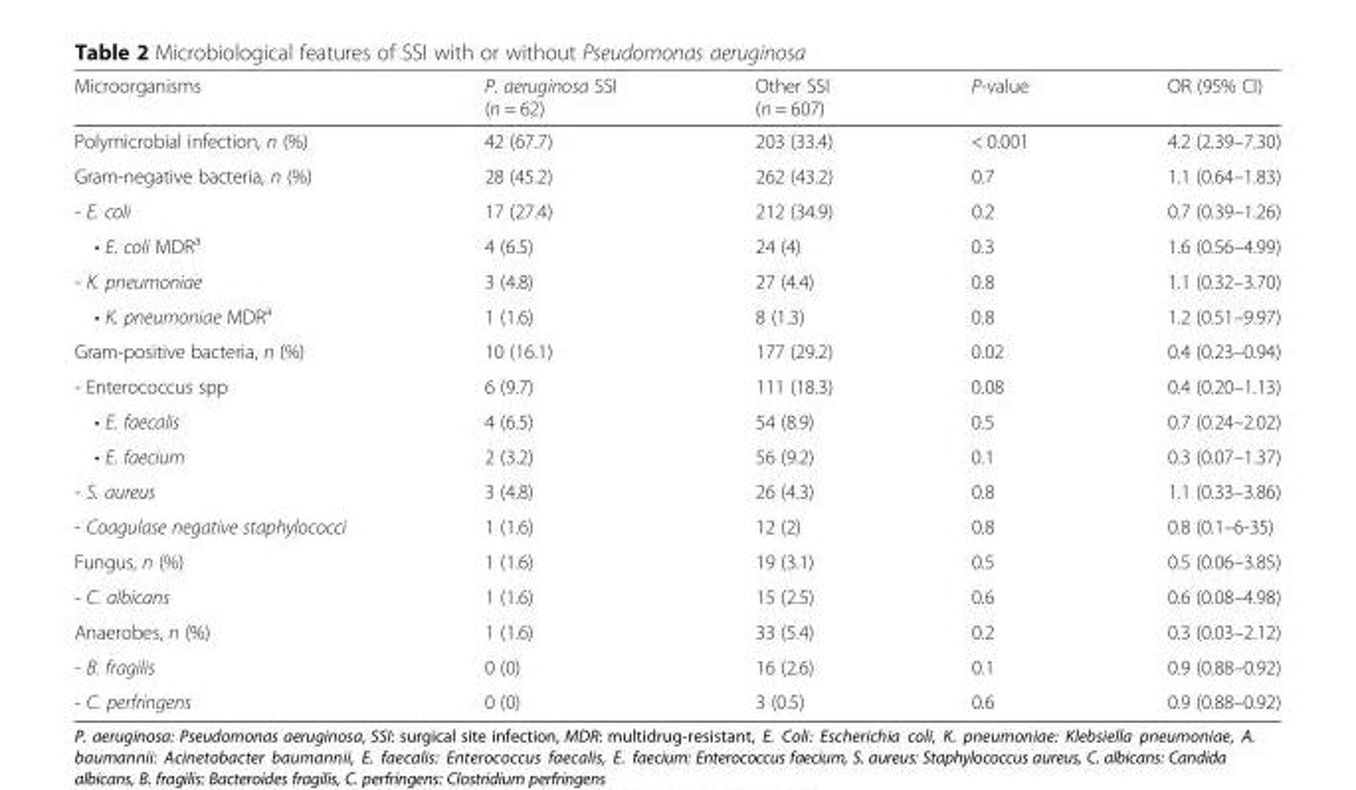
<table><thead><tr><td>Microorganisms</td><td>P. aeruginosa SSI (n = 62)</td><td>Other SSI (n = 607)</td><td>P-value</td><td>OR (95% CI)</td></tr></thead><tbody><tr><td>Polymicrobial infection, n (%)</td><td>42 (67.7)</td><td>203 (33.4)</td><td>&lt; 0.001</td><td>4.2 (2.39–7.30)</td></tr><tr><td>Gram-negative bacteria, n (%)</td><td>28 (45.2)</td><td>262 (43.2)</td><td>0.7</td><td>1.1 (0.64–1.83)</td></tr><tr><td>- E. coli</td><td>17 (27.4)</td><td>212 (34.9)</td><td>0.2</td><td>0.7 (0.39–1.26)</td></tr><tr><td>• E. coli MDR<sup>a</sup></td><td>4 (6.5)</td><td>24 (4)</td><td>0.3</td><td>1.6 (0.56–4.99)</td></tr><tr><td>- K. pneumoniae</td><td>3 (4.8)</td><td>27 (4.4)</td><td>0.8</td><td>1.1 (0.32–3.70)</td></tr><tr><td>• K. pneumoniae MDR<sup>a</sup></td><td>1 (1.6)</td><td>8 (1.3)</td><td>0.8</td><td>1.2 (0.51–9.97)</td></tr><tr><td>Gram-positive bacteria, n (%)</td><td>10 (16.1)</td><td>177 (29.2)</td><td>0.02</td><td>0.4 (0.23–0.94)</td></tr><tr><td>- Enterococcus spp</td><td>6 (9.7)</td><td>111 (18.3)</td><td>0.08</td><td>0.4 (0.20–1.13)</td></tr><tr><td>• E. faecalis</td><td>4 (6.5)</td><td>54 (8.9)</td><td>0.5</td><td>0.7 (0.24–2.02)</td></tr><tr><td>• E. faecium</td><td>2 (3.2)</td><td>56 (9.2)</td><td>0.1</td><td>0.3 (0.07–1.37)</td></tr><tr><td>- S. aureus</td><td>3 (4.8)</td><td>26 (4.3)</td><td>0.8</td><td>1.1 (0.33–3.86)</td></tr><tr><td>- Coagulase negative staphylococci</td><td>1 (1.6)</td><td>12 (2)</td><td>0.8</td><td>0.8 (0.1–6-35)</td></tr><tr><td>Fungus, n (%)</td><td>1 (1.6)</td><td>19 (3.1)</td><td>0.5</td><td>0.5 (0.06–3.85)</td></tr><tr><td>- C. albicans</td><td>1 (1.6)</td><td>15 (2.5)</td><td>0.6</td><td>0.6 (0.08–4.98)</td></tr><tr><td>Anaerobes, n (%)</td><td>1 (1.6)</td><td>33 (5.4)</td><td>0.2</td><td>0.3 (0.03–2.12)</td></tr><tr><td>- B. fragilis</td><td>0 (0)</td><td>16 (2.6)</td><td>0.1</td><td>0.9 (0.88–0.92)</td></tr><tr><td>- C. perfringens</td><td>0 (0)</td><td>3 (0.5)</td><td>0.6</td><td>0.9 (0.88–0.92)</td></tr></tbody></table>